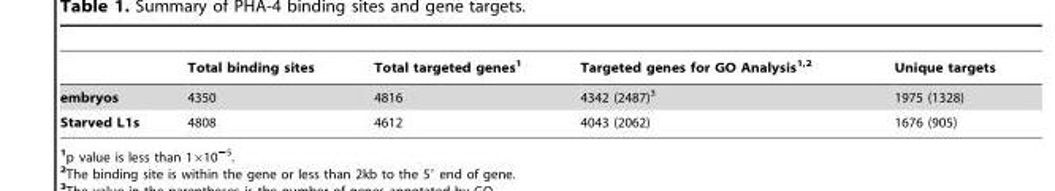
<table><thead><tr><td></td><td>Total binding sites</td><td>Total targeted genes<sup>1</sup></td><td>Targeted genes for GO Analysis<sup>1,</sup>2</td><td>Unique targets</td></tr></thead><tbody><tr><td>embryos</td><td>4350</td><td>4816</td><td>4342 (2487)<sup>3</sup></td><td>1975 (1328)</td></tr><tr><td>Starved L1s</td><td>4808</td><td>4612</td><td>4043 (2062)</td><td>1676 (905)</td></tr></tbody></table>